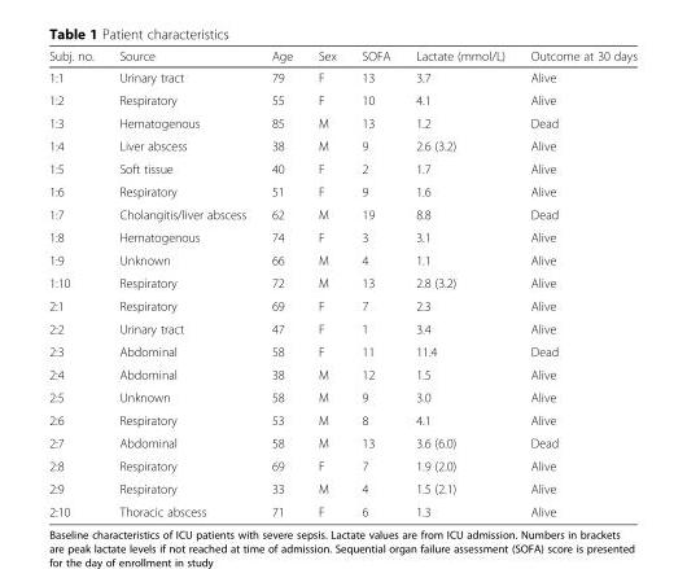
<table><thead><tr><td>Subj. no.</td><td>Source</td><td>Age</td><td>Sex</td><td>SOFA</td><td>Lactate (mmol/L)</td><td>Outcome at 30 days</td></tr></thead><tbody><tr><td>1:1</td><td>Urinary tract</td><td>79</td><td>F</td><td>13</td><td>3.7</td><td>Alive</td></tr><tr><td>1:2</td><td>Respiratory</td><td>55</td><td>F</td><td>10</td><td>4.1</td><td>Alive</td></tr><tr><td>1:3</td><td>Hematogenous</td><td>85</td><td>M</td><td>13</td><td>1.2</td><td>Dead</td></tr><tr><td>1:4</td><td>Liver abscess</td><td>38</td><td>M</td><td>9</td><td>2.6 (3.2)</td><td>Alive</td></tr><tr><td>1:5</td><td>Soft tissue</td><td>40</td><td>F</td><td>2</td><td>1.7</td><td>Alive</td></tr><tr><td>1:6</td><td>Respiratory</td><td>51</td><td>F</td><td>9</td><td>1.6</td><td>Alive</td></tr><tr><td>1:7</td><td>Cholangitis/liver abscess</td><td>62</td><td>M</td><td>19</td><td>8.8</td><td>Dead</td></tr><tr><td>1:8</td><td>Hematogenous</td><td>74</td><td>F</td><td>3</td><td>3.1</td><td>Alive</td></tr><tr><td>1:9</td><td>Unknown</td><td>66</td><td>M</td><td>4</td><td>1.1</td><td>Alive</td></tr><tr><td>1:10</td><td>Respiratory</td><td>72</td><td>M</td><td>13</td><td>2.8 (3.2)</td><td>Alive</td></tr><tr><td>2:1</td><td>Respiratory</td><td>69</td><td>F</td><td>7</td><td>2.3</td><td>Alive</td></tr><tr><td>2:2</td><td>Urinary tract</td><td>47</td><td>F</td><td>1</td><td>3.4</td><td>Alive</td></tr><tr><td>2:3</td><td>Abdominal</td><td>58</td><td>F</td><td>11</td><td>11.4</td><td>Dead</td></tr><tr><td>2:4</td><td>Abdominal</td><td>38</td><td>M</td><td>12</td><td>1.5</td><td>Alive</td></tr><tr><td>2:5</td><td>Unknown</td><td>58</td><td>M</td><td>9</td><td>3.0</td><td>Alive</td></tr><tr><td>2:6</td><td>Respiratory</td><td>53</td><td>M</td><td>8</td><td>4.1</td><td>Alive</td></tr><tr><td>2:7</td><td>Abdominal</td><td>58</td><td>M</td><td>13</td><td>3.6 (6.0)</td><td>Dead</td></tr><tr><td>2:8</td><td>Respiratory</td><td>69</td><td>F</td><td>7</td><td>1.9 (2.0)</td><td>Alive</td></tr><tr><td>2:9</td><td>Respiratory</td><td>33</td><td>M</td><td>4</td><td>1.5 (2.1)</td><td>Alive</td></tr><tr><td>2:10</td><td>Thoracic abscess</td><td>71</td><td>F</td><td>6</td><td>1.3</td><td>Alive</td></tr></tbody></table>